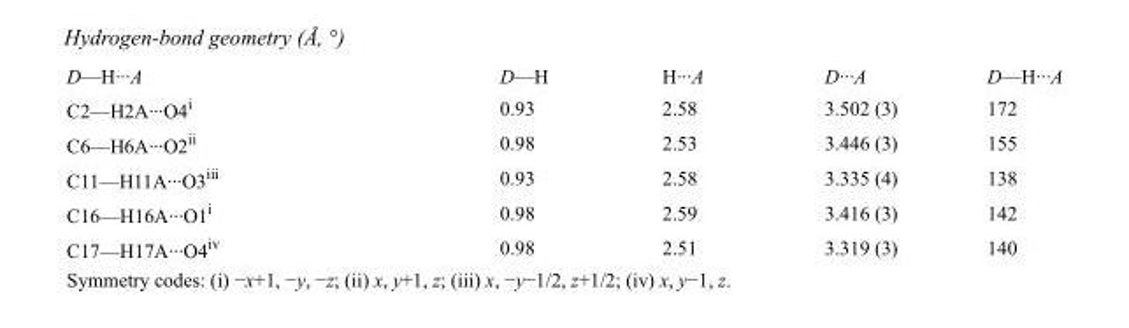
<table><tbody><tr><td>D—H···A</td><td>D—H</td><td>H···A</td><td>D···A</td><td>D—H···A</td></tr><tr><td>C2—H2A···O4<sup>i</sup></td><td>0.93</td><td>2.58</td><td>3.502 (3)</td><td>172</td></tr><tr><td>C6—H6A···O2<sup>ii</sup></td><td>0.98</td><td>2.53</td><td>3.446 (3)</td><td>155</td></tr><tr><td>C11—H11A···O3<sup>iii</sup></td><td>0.93</td><td>2.58</td><td>3.335 (4)</td><td>138</td></tr><tr><td>C16—H16A···O1<sup>i</sup></td><td>0.98</td><td>2.59</td><td>3.416 (3)</td><td>142</td></tr><tr><td>C17—H17A···O4<sup>iv</sup></td><td>0.98</td><td>2.51</td><td>3.319 (3)</td><td>140</td></tr></tbody></table>